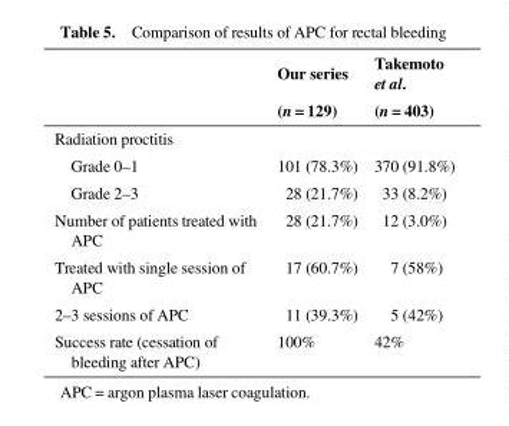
<table><thead><tr><td rowspan="2"></td><td rowspan="2">Our series (n = 129)</td><td rowspan="2">Takemoto et al. (n = 403)</td></tr><tr></tr></thead><tbody><tr><td colspan="3">Radiation proctitis</td></tr><tr><td>Grade 0–1</td><td>101 (78.3%)</td><td>370 (91.8%)</td></tr><tr><td>Grade 2–3</td><td>28 (21.7%)</td><td>33 (8.2%)</td></tr><tr><td>Number of patients treated with APC</td><td>28 (21.7%)</td><td>12 (3.0%)</td></tr><tr><td>Treated with single session of APC</td><td>17 (60.7%)</td><td>7 (58%)</td></tr><tr><td>2–3 sessions of APC</td><td>11 (39.3%)</td><td>5 (42%)</td></tr><tr><td>Success rate (cessation of bleeding after APC)</td><td>100%</td><td>42%</td></tr></tbody></table>